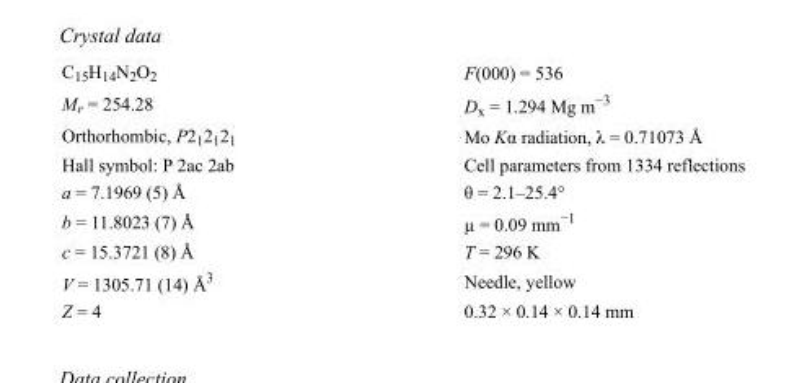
<table><tbody><tr><td>C<sub>15</sub>H<sub>14</sub>N<sub>2</sub>O<sub>2</sub></td><td>F(000) = 536</td></tr><tr><td>M<sub>r</sub> = 254.28</td><td>D<sub>x</sub> = 1.294 Mg m<sup>−3</sup></td></tr><tr><td>Orthorhombic, P2<sub>1</sub>2<sub>1</sub>2<sub>1</sub></td><td>Mo Kα radiation, λ = 0.71073 Å</td></tr><tr><td>Hall symbol: P 2ac 2ab</td><td>Cell parameters from 1334 reflections</td></tr><tr><td>a = 7.1969 (5) Å</td><td>θ = 2.1–25.4°</td></tr><tr><td>b = 11.8023 (7) Å</td><td>µ = 0.09 mm<sup>−1</sup></td></tr><tr><td>c = 15.3721 (8) Å</td><td>T = 296 K</td></tr><tr><td>V = 1305.71 (14) Å<sup>3</sup></td><td>Needle, yellow</td></tr><tr><td>Z = 4</td><td>0.32 × 0.14 × 0.14 mm</td></tr></tbody></table>